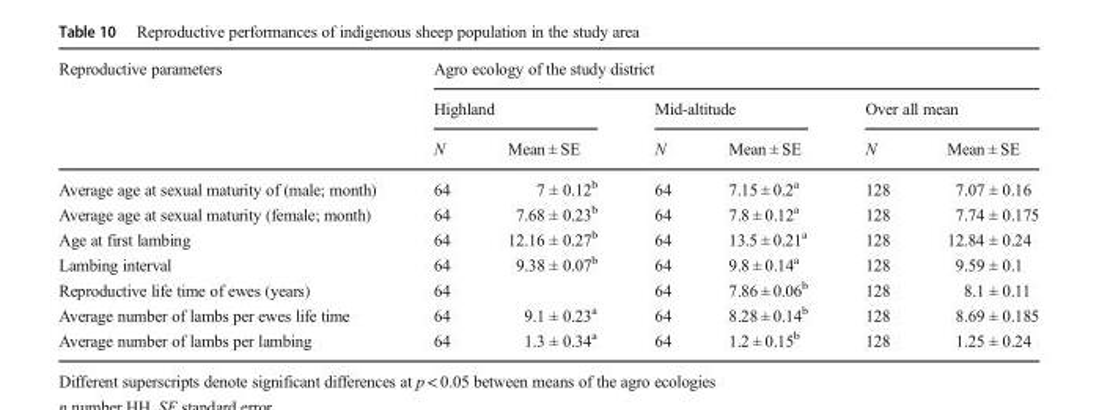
<table><thead><tr><td rowspan="3">Reproductive parameters</td><td colspan="6">Agro ecology of the study district</td></tr><tr><td colspan="2">Highland</td><td colspan="2">Mid-altitude</td><td colspan="2">Over all mean</td></tr><tr><td>N</td><td>Mean ± SE</td><td>N</td><td>Mean ± SE</td><td>N</td><td>Mean ± SE</td></tr></thead><tbody><tr><td>Average age at sexual maturity of (male; month)</td><td>64</td><td>7 ± 0.12<sup>b</sup></td><td>64</td><td>7.15 ± 0.2<sup>a</sup></td><td>128</td><td>7.07 ± 0.16</td></tr><tr><td>Average age at sexual maturity (female; month)</td><td>64</td><td>7.68 ± 0.23<sup>b</sup></td><td>64</td><td>7.8 ± 0.12<sup>a</sup></td><td>128</td><td>7.74 ± 0.175</td></tr><tr><td>Age at first lambing</td><td>64</td><td>12.16 ± 0.27<sup>b</sup></td><td>64</td><td>13.5 ± 0.21<sup>a</sup></td><td>128</td><td>12.84 ± 0.24</td></tr><tr><td>Lambing interval</td><td>64</td><td>9.38 ± 0.07<sup>b</sup></td><td>64</td><td>9.8 ± 0.14<sup>a</sup></td><td>128</td><td>9.59 ± 0.1</td></tr><tr><td>Reproductive life time of ewes (years)</td><td>64</td><td></td><td>64</td><td>7.86 ± 0.06<sup>b</sup></td><td>128</td><td>8.1 ± 0.11</td></tr><tr><td>Average number of lambs per ewes life time</td><td>64</td><td>9.1 ± 0.23<sup>a</sup></td><td>64</td><td>8.28 ± 0.14<sup>b</sup></td><td>128</td><td>8.69 ± 0.185</td></tr><tr><td>Average number of lambs per lambing</td><td>64</td><td>1.3 ± 0.34<sup>a</sup></td><td>64</td><td>1.2 ± 0.15<sup>b</sup></td><td>128</td><td>1.25 ± 0.24</td></tr></tbody></table>